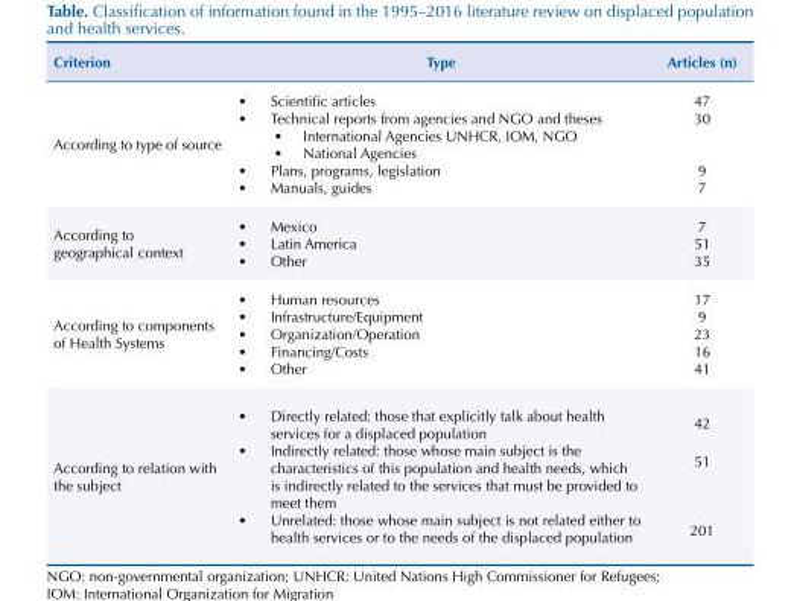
<table><thead><tr><td>Criterion</td><td>Type</td><td>Articles (n)</td></tr></thead><tbody><tr><td>According to type of source</td><td>• Scientific articles • Technical reports from agencies and NGO and theses • International Agencies UNHCR, IOM, NGO • National Agencies • Plans, programs, legislation • Manuals, guides</td><td>47 30 9 7</td></tr><tr><td>According to geographical context</td><td>• Mexico • Latin America • Other</td><td>7 51 35</td></tr><tr><td>According to components of Health Systems</td><td>• Human resources • Infrastructure/Equipment • Organization/Operation • Financing/Costs • Other</td><td>17 9 23 16 41</td></tr><tr><td>According to relation with the subject</td><td>• Directly related: those that explicitly talk about health services for a displaced population • Indirectly related: those whose main subject is the characteristics of this population and health needs, which is indirectly related to the services that must be provided to meet them • Unrelated: those whose main subject is not related either to health services or to the needs of the displaced population</td><td>42 51 201</td></tr></tbody></table>